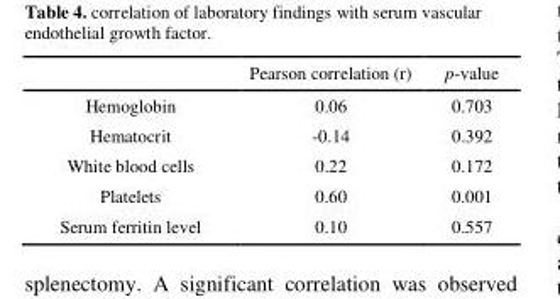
<table><thead><tr><td></td><td>Pearson correlation (r)</td><td>p-value</td></tr></thead><tbody><tr><td>Hemoglobin</td><td>0.06</td><td>0.703</td></tr><tr><td>Hematocrit</td><td>-0.14</td><td>0.392</td></tr><tr><td>White blood cells</td><td>0.22</td><td>0.172</td></tr><tr><td>Platelets</td><td>0.60</td><td>0.001</td></tr><tr><td>Serum ferritin level</td><td>0.10</td><td>0.557</td></tr></tbody></table>